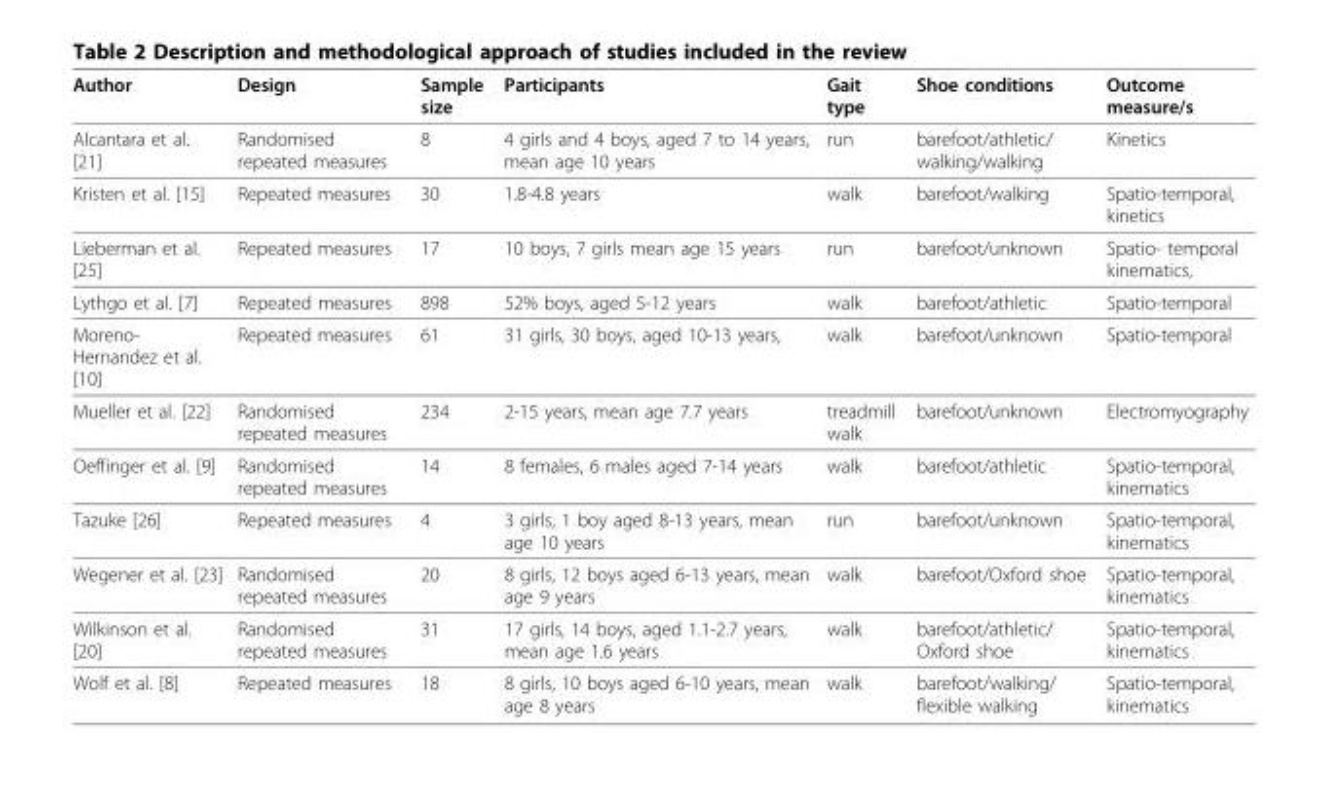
<table><thead><tr><td>Author</td><td>Design</td><td>Sample size</td><td>Participants</td><td>Gait type</td><td>Shoe conditions</td><td>Outcome measure/s</td></tr></thead><tbody><tr><td>Alcantara et al. [21]</td><td>Randomised repeated measures</td><td>8</td><td>4 girls and 4 boys, aged 7 to 14 years, mean age 10 years</td><td>run</td><td>barefoot/athletic/ walking/walking</td><td>Kinetics</td></tr><tr><td>Kristen et al. [15]</td><td>Repeated measures</td><td>30</td><td>1.8-4.8 years</td><td>walk</td><td>barefoot/walking</td><td>Spatio-temporal, kinetics</td></tr><tr><td>Lieberman et al. [25]</td><td>Repeated measures</td><td>17</td><td>10 boys, 7 girls mean age 15 years</td><td>run</td><td>barefoot/unknown</td><td>Spatio- temporal kinematics,</td></tr><tr><td>Lythgo et al. [7]</td><td>Repeated measures</td><td>898</td><td>52% boys, aged 5-12 years</td><td>walk</td><td>barefoot/athletic</td><td>Spatio-temporal</td></tr><tr><td>Moreno- Hernandez et al. [10]</td><td>Repeated measures</td><td>61</td><td>31 girls, 30 boys, aged 10-13 years,</td><td>walk</td><td>barefoot/unknown</td><td>Spatio-temporal</td></tr><tr><td>Mueller et al. [22]</td><td>Randomised repeated measures</td><td>234</td><td>2-15 years, mean age 7.7 years</td><td>treadmill walk</td><td>barefoot/unknown</td><td>Electromyography</td></tr><tr><td>Oeffinger et al. [9]</td><td>Randomised repeated measures</td><td>14</td><td>8 females, 6 males aged 7-14 years</td><td>walk</td><td>barefoot/athletic</td><td>Spatio-temporal, kinematics</td></tr><tr><td>Tazuke [26]</td><td>Repeated measures</td><td>4</td><td>3 girls, 1 boy aged 8-13 years, mean age 10 years</td><td>run</td><td>barefoot/unknown</td><td>Spatio-temporal, kinematics</td></tr><tr><td>Wegener et al. [23]</td><td>Randomised repeated measures</td><td>20</td><td>8 girls, 12 boys aged 6-13 years, mean age 9 years</td><td>walk</td><td>barefoot/Oxford shoe</td><td>Spatio-temporal, kinematics</td></tr><tr><td>Wilkinson et al. [20]</td><td>Randomised repeated measures</td><td>31</td><td>17 girls, 14 boys, aged 1.1-2.7 years, mean age 1.6 years</td><td>walk</td><td>barefoot/athletic/ Oxford shoe</td><td>Spatio-temporal, kinematics</td></tr><tr><td>Wolf et al. [8]</td><td>Repeated measures</td><td>18</td><td>8 girls, 10 boys aged 6-10 years, mean age 8 years</td><td>walk</td><td>barefoot/walking/ flexible walking</td><td>Spatio-temporal, kinematics</td></tr></tbody></table>